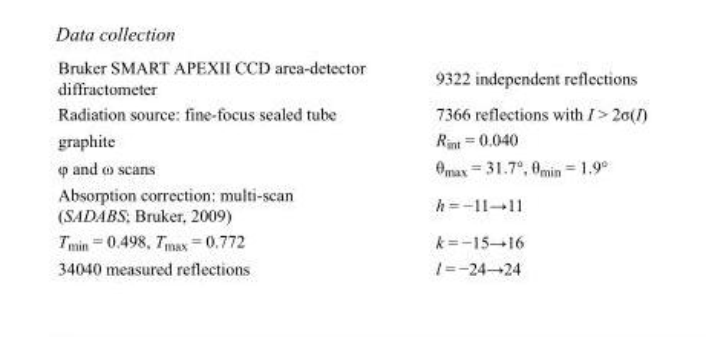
<table><tbody><tr><td>Bruker SMART APEXII CCD area-detector diffractometer</td><td>9322 independent reflections</td></tr><tr><td>Radiation source: fine-focus sealed tube</td><td>7366 reflections with I &gt; 2σ(I)</td></tr><tr><td>graphite</td><td>R<sub>int</sub> = 0.040</td></tr><tr><td>φ and ω scans</td><td>θ<sub>max</sub> = 31.7°, θ<sub>min</sub> = 1.9°</td></tr><tr><td>Absorption correction: multi-scan (SADABS; Bruker, 2009)</td><td>h = −11→11</td></tr><tr><td>T<sub>min</sub> = 0.498, T<sub>max</sub> = 0.772</td><td>k = −15→16</td></tr><tr><td>34040 measured reflections</td><td>l = −24→24</td></tr></tbody></table>